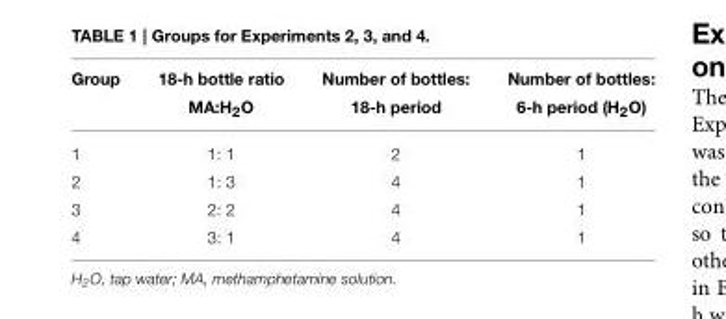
<table><thead><tr><td>Group</td><td>18-h bottle ratio MA:H<sub>2</sub>O</td><td>Number of bottles: 18-h period</td><td>Number of bottles: 6-h period (H<sub>2</sub>O)</td></tr></thead><tbody><tr><td>1</td><td>1: 1</td><td>2</td><td>1</td></tr><tr><td>2</td><td>1: 3</td><td>4</td><td>1</td></tr><tr><td>3</td><td>2: 2</td><td>4</td><td>1</td></tr><tr><td>4</td><td>3: 1</td><td>4</td><td>1</td></tr></tbody></table>